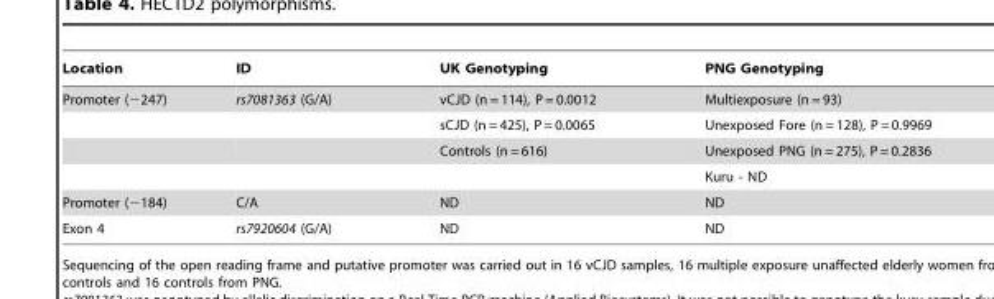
<table><thead><tr><td>Location</td><td>ID</td><td>UK Genotyping</td><td>PNG Genotyping</td></tr></thead><tbody><tr><td rowspan="4">Promoter (−247)</td><td>rs7081363 (G/A)</td><td>vCJD (n = 114), P = 0.0012</td><td>Multiexposure (n = 93)</td></tr><tr><td></td><td>sCJD (n = 425), P = 0.0065</td><td>Unexposed Fore (n = 128), P = 0.9969</td></tr><tr><td></td><td>Controls (n = 616)</td><td>Unexposed PNG (n = 275), P = 0.2836</td></tr><tr><td></td><td></td><td>Kuru - ND</td></tr><tr><td>Promoter (−184)</td><td>C/A</td><td>ND</td><td>ND</td></tr><tr><td>Exon 4</td><td>rs7920604 (G/A)</td><td>ND</td><td>ND</td></tr></tbody></table>